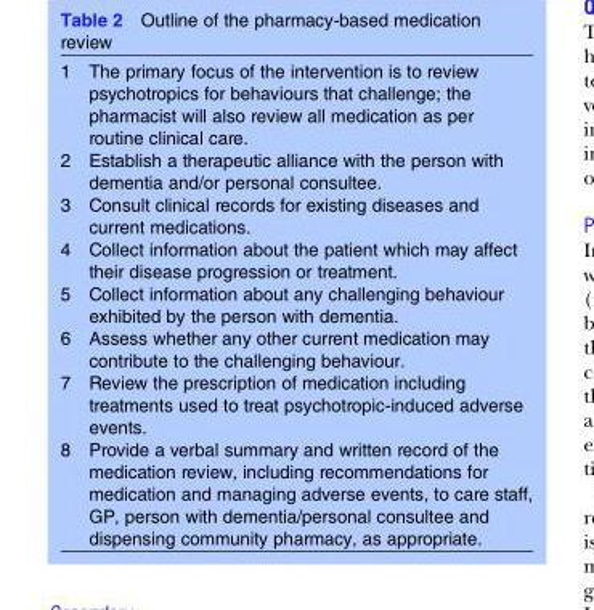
<table><tbody><tr><td>1</td><td>The primary focus of the intervention is to review psychotropics for behaviours that challenge; the pharmacist will also review all medication as per routine clinical care.</td></tr><tr><td>2</td><td>Establish a therapeutic alliance with the person with dementia and/or personal consultee.</td></tr><tr><td>3</td><td>Consult clinical records for existing diseases and current medications.</td></tr><tr><td>4</td><td>Collect information about the patient which may affect their disease progression or treatment.</td></tr><tr><td>5</td><td>Collect information about any challenging behaviour exhibited by the person with dementia.</td></tr><tr><td>6</td><td>Assess whether any other current medication may contribute to the challenging behaviour.</td></tr><tr><td>7</td><td>Review the prescription of medication including treatments used to treat psychotropic-induced adverse events.</td></tr><tr><td>8</td><td>Provide a verbal summary and written record of the medication review, including recommendations for medication and managing adverse events, to care staff, GP, person with dementia/personal consultee and dispensing community pharmacy, as appropriate.</td></tr></tbody></table>